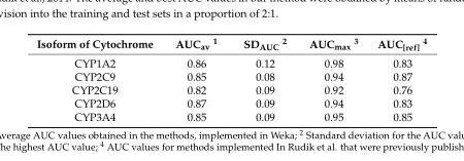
<table><thead><tr><td>Isoform of Cytochrome</td><td>AUC<sub>av</sub> <sup>1</sup></td><td>SD<sub>AUC</sub> <sup>2</sup></td><td>AUC<sub>max</sub> <sup>3</sup></td><td>AUC<sub>[ref]</sub> <sup>4</sup></td></tr></thead><tbody><tr><td>CYP1A2</td><td>0.86</td><td>0.12</td><td>0.98</td><td>0.83</td></tr><tr><td>CYP2C9</td><td>0.85</td><td>0.08</td><td>0.94</td><td>0.87</td></tr><tr><td>CYP2C19</td><td>0.82</td><td>0.09</td><td>0.92</td><td>0.76</td></tr><tr><td>CYP2D6</td><td>0.87</td><td>0.09</td><td>0.94</td><td>0.83</td></tr><tr><td>CYP3A4</td><td>0.85</td><td>0.09</td><td>0.95</td><td>0.85</td></tr></tbody></table>